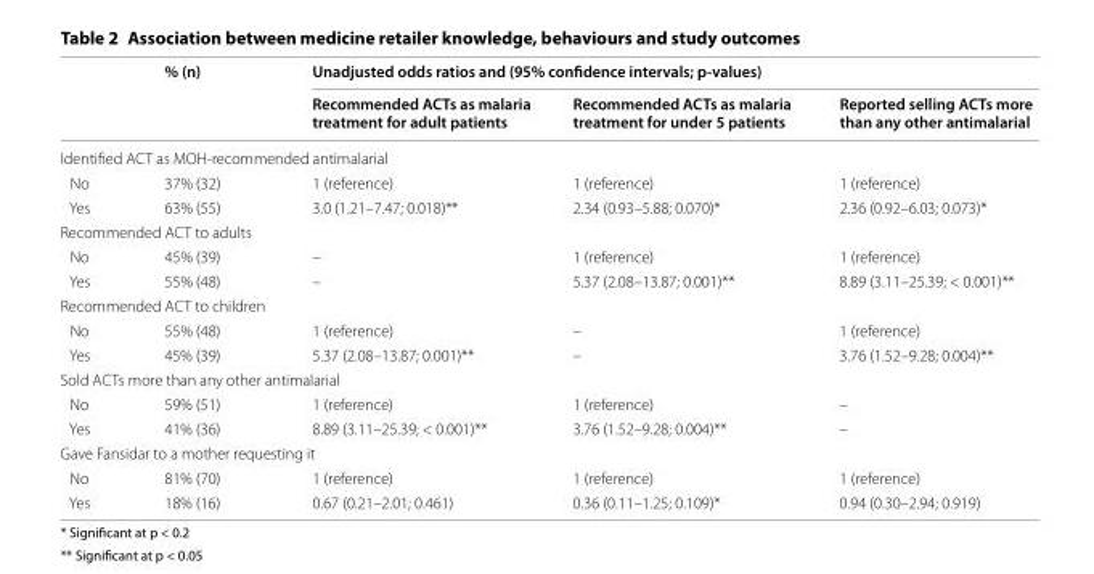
<table><thead><tr><td rowspan="2"></td><td rowspan="2">% (n)</td><td colspan="3">Unadjusted odds ratios and (95% confidence intervals; p-values)</td></tr><tr><td>Recommended ACTs as malaria treatment for adult patients</td><td>Recommended ACTs as malaria treatment for under 5 patients</td><td>Reported selling ACTs more than any other antimalarial</td></tr></thead><tbody><tr><td colspan="5">Identified ACT as MOH-recommended antimalarial</td></tr><tr><td>No</td><td>37% (32)</td><td>1 (reference)</td><td>1 (reference)</td><td>1 (reference)</td></tr><tr><td>Yes</td><td>63% (55)</td><td>3.0 (1.21–7.47; 0.018)**</td><td>2.34 (0.93–5.88; 0.070)*</td><td>2.36 (0.92–6.03; 0.073)*</td></tr><tr><td colspan="5">Recommended ACT to adults</td></tr><tr><td>No</td><td>45% (39)</td><td>–</td><td>1 (reference)</td><td>1 (reference)</td></tr><tr><td>Yes</td><td>55% (48)</td><td>–</td><td>5.37 (2.08–13.87; 0.001)**</td><td>8.89 (3.11–25.39; &lt; 0.001)**</td></tr><tr><td colspan="5">Recommended ACT to children</td></tr><tr><td>No</td><td>55% (48)</td><td>1 (reference)</td><td>–</td><td>1 (reference)</td></tr><tr><td>Yes</td><td>45% (39)</td><td>5.37 (2.08–13.87; 0.001)**</td><td>–</td><td>3.76 (1.52–9.28; 0.004)**</td></tr><tr><td colspan="5">Sold ACTs more than any other antimalarial</td></tr><tr><td>No</td><td>59% (51)</td><td>1 (reference)</td><td>1 (reference)</td><td>–</td></tr><tr><td>Yes</td><td>41% (36)</td><td>8.89 (3.11–25.39; &lt; 0.001)**</td><td>3.76 (1.52–9.28; 0.004)**</td><td>–</td></tr><tr><td colspan="5">Gave Fansidar to a mother requesting it</td></tr><tr><td>No</td><td>81% (70)</td><td>1 (reference)</td><td>1 (reference)</td><td>1 (reference)</td></tr><tr><td>Yes</td><td>18% (16)</td><td>0.67 (0.21–2.01; 0.461)</td><td>0.36 (0.11–1.25; 0.109)*</td><td>0.94 (0.30–2.94; 0.919)</td></tr></tbody></table>